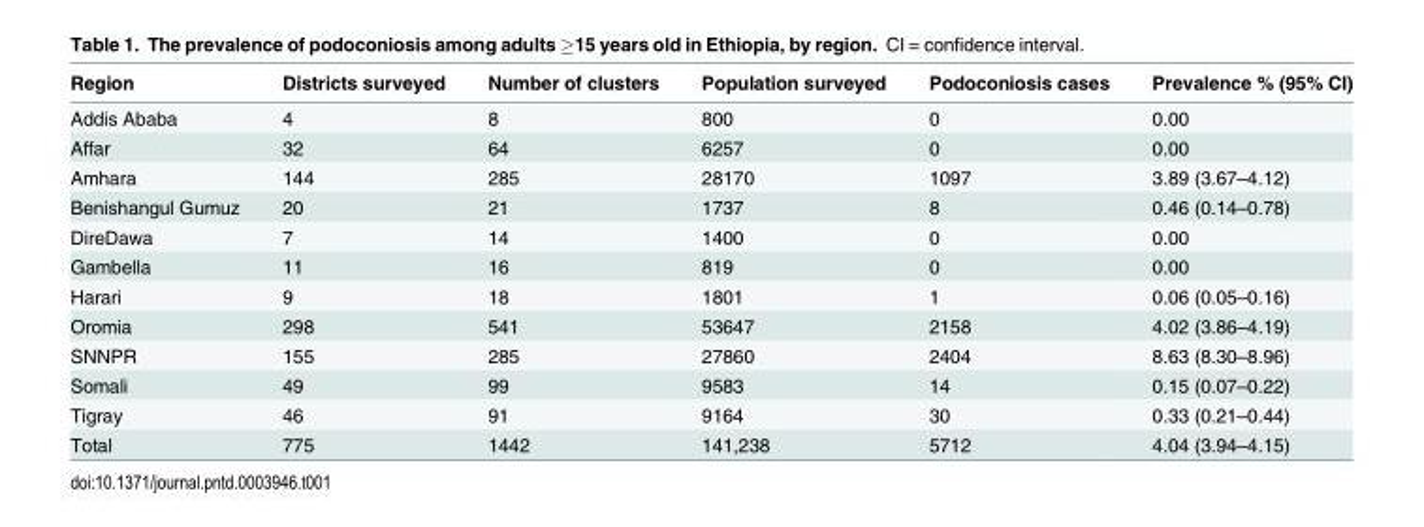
<table><thead><tr><td>Region</td><td>Districts surveyed</td><td>Number of clusters</td><td>Population surveyed</td><td>Podoconiosis cases</td><td>Prevalence % (95% CI)</td></tr></thead><tbody><tr><td>Addis Ababa</td><td>4</td><td>8</td><td>800</td><td>0</td><td>0.00</td></tr><tr><td>Affar</td><td>32</td><td>64</td><td>6257</td><td>0</td><td>0.00</td></tr><tr><td>Amhara</td><td>144</td><td>285</td><td>28170</td><td>1097</td><td>3.89 (3.67–4.12)</td></tr><tr><td>Benishangul Gumuz</td><td>20</td><td>21</td><td>1737</td><td>8</td><td>0.46 (0.14–0.78)</td></tr><tr><td>DireDawa</td><td>7</td><td>14</td><td>1400</td><td>0</td><td>0.00</td></tr><tr><td>Gambella</td><td>11</td><td>16</td><td>819</td><td>0</td><td>0.00</td></tr><tr><td>Harari</td><td>9</td><td>18</td><td>1801</td><td>1</td><td>0.06 (0.05–0.16)</td></tr><tr><td>Oromia</td><td>298</td><td>541</td><td>53647</td><td>2158</td><td>4.02 (3.86–4.19)</td></tr><tr><td>SNNPR</td><td>155</td><td>285</td><td>27860</td><td>2404</td><td>8.63 (8.30–8.96)</td></tr><tr><td>Somali</td><td>49</td><td>99</td><td>9583</td><td>14</td><td>0.15 (0.07–0.22)</td></tr><tr><td>Tigray</td><td>46</td><td>91</td><td>9164</td><td>30</td><td>0.33 (0.21–0.44)</td></tr><tr><td>Total</td><td>775</td><td>1442</td><td>141,238</td><td>5712</td><td>4.04 (3.94–4.15)</td></tr></tbody></table>